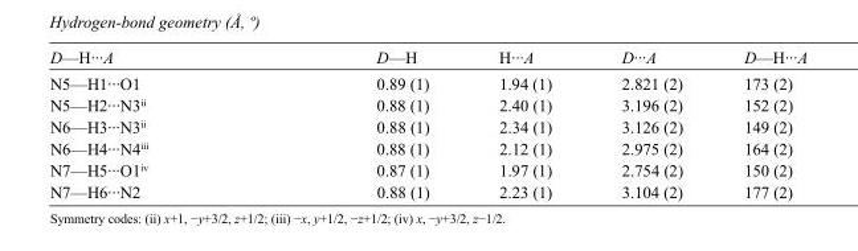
<table><tbody><tr><td>D—H···A</td><td>D—H</td><td>H···A</td><td>D···A</td><td>D—H···A</td></tr><tr><td>N5—H1···O1</td><td>0.89 (1)</td><td>1.94 (1)</td><td>2.821 (2)</td><td>173 (2)</td></tr><tr><td>N5—H2···N3<sup>ii</sup></td><td>0.88 (1)</td><td>2.40 (1)</td><td>3.196 (2)</td><td>152 (2)</td></tr><tr><td>N6—H3···N3<sup>ii</sup></td><td>0.88 (1)</td><td>2.34 (1)</td><td>3.126 (2)</td><td>149 (2)</td></tr><tr><td>N6—H4···N4<sup>iii</sup></td><td>0.88 (1)</td><td>2.12 (1)</td><td>2.975 (2)</td><td>164 (2)</td></tr><tr><td>N7—H5···O1<sup>iv</sup></td><td>0.87 (1)</td><td>1.97 (1)</td><td>2.754 (2)</td><td>150 (2)</td></tr><tr><td>N7—H6···N2</td><td>0.88 (1)</td><td>2.23 (1)</td><td>3.104 (2)</td><td>177 (2)</td></tr></tbody></table>